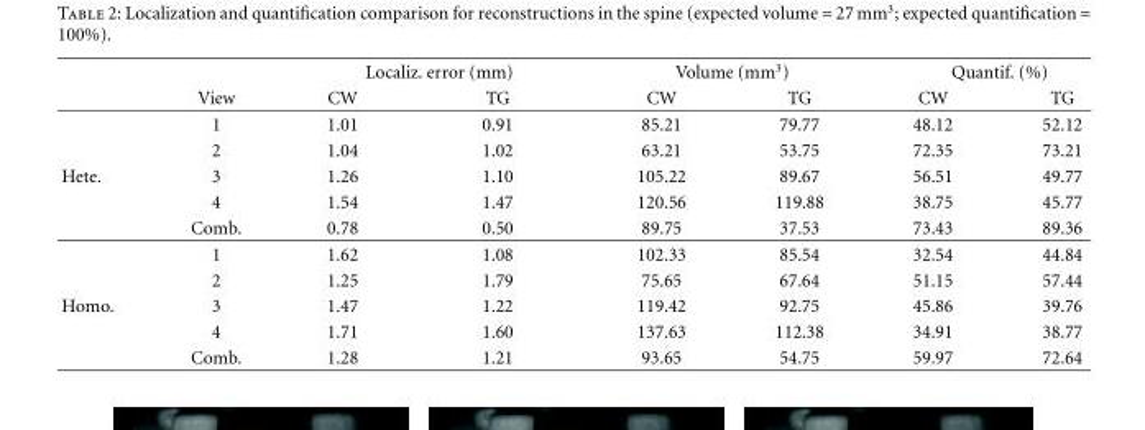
<table><thead><tr><td rowspan="2"></td><td rowspan="2">View</td><td colspan="2">Localiz. error (mm)</td><td colspan="2">Volume (mm<sup>3</sup>)</td><td colspan="2">Quantif. (%)</td></tr><tr><td>CW</td><td>TG</td><td>CW</td><td>TG</td><td>CW</td><td>TG</td></tr></thead><tbody><tr><td></td><td>1</td><td>1.01</td><td>0.91</td><td>85.21</td><td>79.77</td><td>48.12</td><td>52.12</td></tr><tr><td></td><td>2</td><td>1.04</td><td>1.02</td><td>63.21</td><td>53.75</td><td>72.35</td><td>73.21</td></tr><tr><td rowspan="5">Hete.</td><td>3</td><td>1.26</td><td>1.10</td><td>105.22</td><td>89.67</td><td>56.51</td><td>49.77</td></tr><tr><td>4</td><td>1.54</td><td>1.47</td><td>120.56</td><td>119.88</td><td>38.75</td><td>45.77</td></tr><tr><td>Comb.</td><td>0.78</td><td>0.50</td><td>89.75</td><td>37.53</td><td>73.43</td><td>89.36</td></tr><tr><td>1</td><td>1.62</td><td>1.08</td><td>102.33</td><td>85.54</td><td>32.54</td><td>44.84</td></tr><tr><td>2</td><td>1.25</td><td>1.79</td><td>75.65</td><td>67.64</td><td>51.15</td><td>57.44</td></tr><tr><td rowspan="3">Homo.</td><td>3</td><td>1.47</td><td>1.22</td><td>119.42</td><td>92.75</td><td>45.86</td><td>39.76</td></tr><tr><td>4</td><td>1.71</td><td>1.60</td><td>137.63</td><td>112.38</td><td>34.91</td><td>38.77</td></tr><tr><td>Comb.</td><td>1.28</td><td>1.21</td><td>93.65</td><td>54.75</td><td>59.97</td><td>72.64</td></tr></tbody></table>